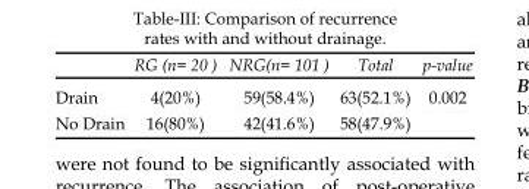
<table><thead><tr><td></td><td>RG (n= 20 )</td><td>NRG(n= 101 )</td><td>Total</td><td>p-value</td></tr></thead><tbody><tr><td>Drain</td><td>4(20%)</td><td>59(58.4%)</td><td>63(52.1%)</td><td>0.002</td></tr><tr><td>No Drain</td><td>16(80%)</td><td>42(41.6%)</td><td>58(47.9%)</td><td></td></tr></tbody></table>